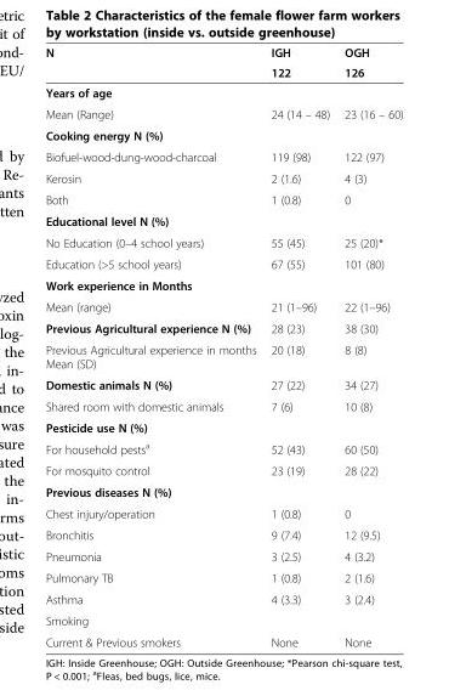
<table><thead><tr><td rowspan="2">N</td><td rowspan="2">IGH 122</td><td rowspan="2">OGH 126</td></tr><tr></tr></thead><tbody><tr><td colspan="3">Years of age</td></tr><tr><td>Mean (Range)</td><td>24 (14 – 48)</td><td>23 (16 – 60)</td></tr><tr><td colspan="3">Cooking energy N (%)</td></tr><tr><td>Biofuel-wood-dung-wood-charcoal</td><td>119 (98)</td><td>122 (97)</td></tr><tr><td>Kerosin</td><td>2 (1.6)</td><td>4 (3)</td></tr><tr><td>Both</td><td>1 (0.8)</td><td>0</td></tr><tr><td colspan="3">Educational level N (%)</td></tr><tr><td>No Education (0–4 school years)</td><td>55 (45)</td><td>25 (20)*</td></tr><tr><td>Education (&gt;5 school years)</td><td>67 (55)</td><td>101 (80)</td></tr><tr><td colspan="3">Work experience in Months</td></tr><tr><td>Mean (range)</td><td>21 (1–96)</td><td>22 (1–96)</td></tr><tr><td>Previous Agricultural experience N (%)</td><td>28 (23)</td><td>38 (30)</td></tr><tr><td>Previous Agricultural experience in months Mean (SD)</td><td>20 (18)</td><td>8 (8)</td></tr><tr><td>Domestic animals N (%)</td><td>27 (22)</td><td>34 (27)</td></tr><tr><td>Shared room with domestic animals</td><td>7 (6)</td><td>10 (8)</td></tr><tr><td colspan="3">Pesticide use N (%)</td></tr><tr><td>For household pests<sup>a</sup></td><td>52 (43)</td><td>60 (50)</td></tr><tr><td>For mosquito control</td><td>23 (19)</td><td>28 (22)</td></tr><tr><td colspan="3">Previous diseases N (%)</td></tr><tr><td>Chest injury/operation</td><td>1 (0.8)</td><td>0</td></tr><tr><td>Bronchitis</td><td>9 (7.4)</td><td>12 (9.5)</td></tr><tr><td>Pneumonia</td><td>3 (2.5)</td><td>4 (3.2)</td></tr><tr><td>Pulmonary TB</td><td>1 (0.8)</td><td>2 (1.6)</td></tr><tr><td>Asthma</td><td>4 (3.3)</td><td>3 (2.4)</td></tr><tr><td colspan="3">Smoking</td></tr><tr><td>Current &amp; Previous smokers</td><td>None</td><td>None</td></tr></tbody></table>